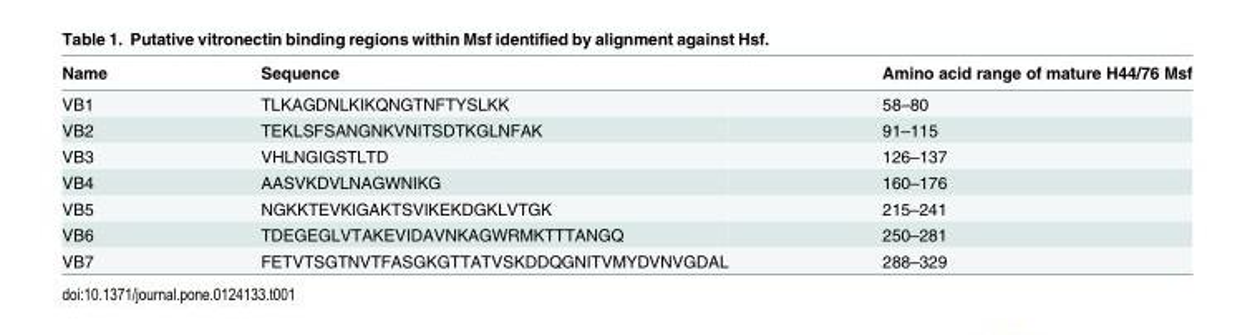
<table><thead><tr><td>Name</td><td>Sequence</td><td>Amino acid range of mature H44/76 Msf</td></tr></thead><tbody><tr><td>VB1</td><td>TLKAGDNLKIKQNGTNFTYSLKK</td><td>58–80</td></tr><tr><td>VB2</td><td>TEKLSFSANGNKVNITSDTKGLNFAK</td><td>91–115</td></tr><tr><td>VB3</td><td>VHLNGIGSTLTD</td><td>126–137</td></tr><tr><td>VB4</td><td>AASVKDVLNAGWNIKG</td><td>160–176</td></tr><tr><td>VB5</td><td>NGKKTEVKIGAKTSVIKEKDGKLVTGK</td><td>215–241</td></tr><tr><td>VB6</td><td>TDEGEGLVTAKEVIDAVNKAGWRMKTTTANGQ</td><td>250–281</td></tr><tr><td>VB7</td><td>FETVTSGTNVTFASGKGTTATVSKDDQGNITVMYDVNVGDAL</td><td>288–329</td></tr></tbody></table>